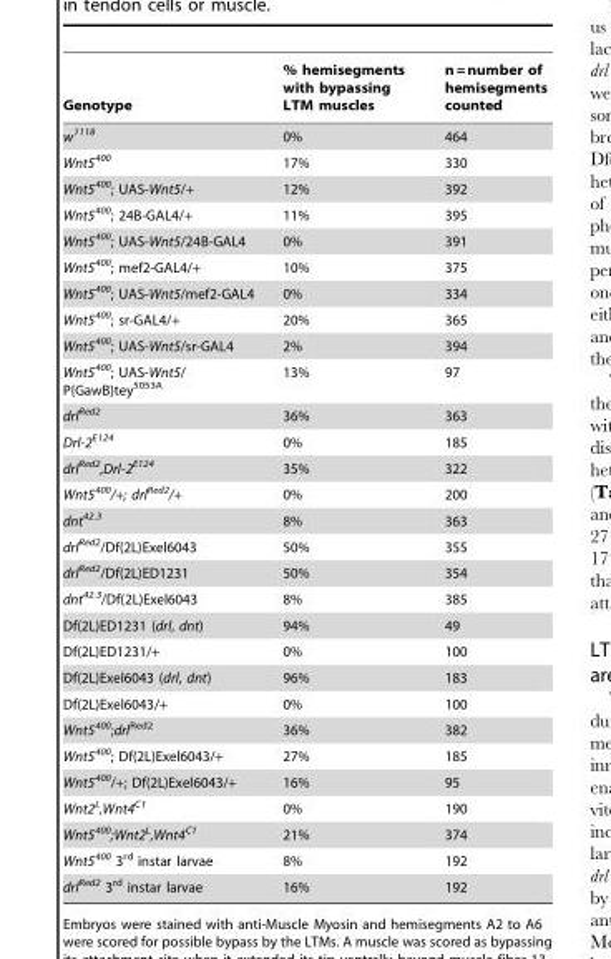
<table><thead><tr><td>Genotype</td><td>% hemisegments with bypassing LTM muscles</td><td>n = number of hemisegments counted</td></tr></thead><tbody><tr><td>w<sup>1118</sup></td><td>0%</td><td>464</td></tr><tr><td>Wnt5<sup>400</sup></td><td>17%</td><td>330</td></tr><tr><td>Wnt5<sup>400</sup>; UAS-Wnt5/+</td><td>12%</td><td>392</td></tr><tr><td>Wnt5<sup>400</sup>; 24B-GAL4/+</td><td>11%</td><td>395</td></tr><tr><td>Wnt5<sup>400</sup>; UAS-Wnt5/24B-GAL4</td><td>0%</td><td>391</td></tr><tr><td>Wnt5<sup>400</sup>; mef2-GAL4/+</td><td>10%</td><td>375</td></tr><tr><td>Wnt5<sup>400</sup>; UAS-Wnt5/mef2-GAL4</td><td>0%</td><td>334</td></tr><tr><td>Wnt5<sup>400</sup>; sr-GAL4/+</td><td>20%</td><td>365</td></tr><tr><td>Wnt5<sup>400</sup>; UAS-Wnt5/sr-GAL4</td><td>2%</td><td>394</td></tr><tr><td>Wnt5<sup>400</sup>; UAS-Wnt5/ P{GawB}tey<sup>5053A</sup></td><td>13%</td><td>97</td></tr><tr><td>drl<sup>Red2</sup></td><td>36%</td><td>363</td></tr><tr><td>Drl-2<sup>E124</sup></td><td>0%</td><td>185</td></tr><tr><td>drl<sup>Red2</sup>,Drl-2<sup>E124</sup></td><td>35%</td><td>322</td></tr><tr><td>Wnt5<sup>400</sup>/+; drl<sup>Red2</sup>/+</td><td>0%</td><td>200</td></tr><tr><td>dnt<sup>42.3</sup></td><td>8%</td><td>363</td></tr><tr><td>drl<sup>Red2</sup>/Df(2L)Exel6043</td><td>50%</td><td>355</td></tr><tr><td>drl<sup>Red2</sup>/Df(2L)ED1231</td><td>50%</td><td>354</td></tr><tr><td>dnt<sup>42.3</sup>/Df(2L)Exel6043</td><td>8%</td><td>385</td></tr><tr><td>Df(2L)ED1231 (drl, dnt)</td><td>94%</td><td>49</td></tr><tr><td>Df(2L)ED1231/+</td><td>0%</td><td>100</td></tr><tr><td>Df(2L)Exel6043 (drl, dnt)</td><td>96%</td><td>183</td></tr><tr><td>Df(2L)Exel6043/+</td><td>0%</td><td>100</td></tr><tr><td>Wnt5<sup>400</sup>;drl<sup>Red2</sup></td><td>36%</td><td>382</td></tr><tr><td>Wnt5<sup>400</sup>; Df(2L)Exel6043/+</td><td>27%</td><td>185</td></tr><tr><td>Wnt5<sup>400</sup>/+; Df(2L)Exel6043/+</td><td>16%</td><td>95</td></tr><tr><td>Wnt2<sup>L</sup>,Wnt4<sup>C1</sup></td><td>0%</td><td>190</td></tr><tr><td>Wnt5<sup>400</sup>;Wnt2<sup>L</sup>,Wnt4<sup>C1</sup></td><td>21%</td><td>374</td></tr><tr><td>Wnt5<sup>400</sup> 3<sup>rd</sup> instar larvae</td><td>8%</td><td>192</td></tr><tr><td>drl<sup>Red2</sup> 3<sup>rd</sup> instar larvae</td><td>16%</td><td>192</td></tr></tbody></table>